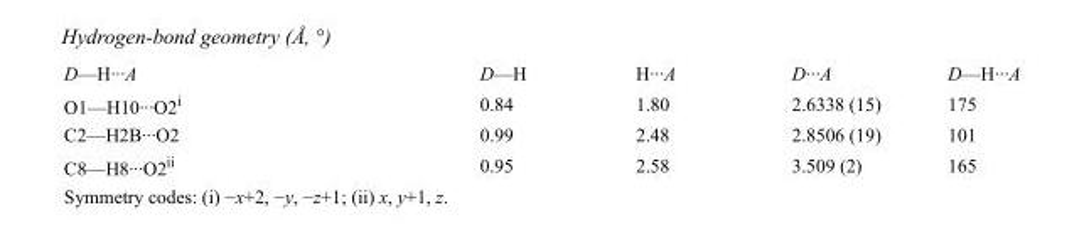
<table><tbody><tr><td>D—H···A</td><td>D—H</td><td>H···A</td><td>D···A</td><td>D—H···A</td></tr><tr><td>O1—H10···O2<sup>i</sup></td><td>0.84</td><td>1.80</td><td>2.6338 (15)</td><td>175</td></tr><tr><td>C2—H2B···O2</td><td>0.99</td><td>2.48</td><td>2.8506 (19)</td><td>101</td></tr><tr><td>C8—H8···O2<sup>ii</sup></td><td>0.95</td><td>2.58</td><td>3.509 (2)</td><td>165</td></tr></tbody></table>